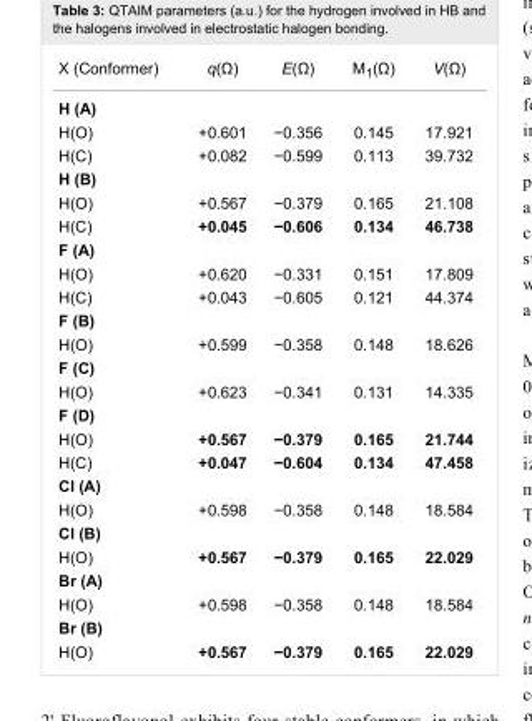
<table><tbody><tr><td>X (Conformer)</td><td>q(Ω)</td><td>E(Ω)</td><td>M<sub>1</sub>(Ω)</td><td>V(Ω)</td></tr><tr><td colspan="5">H (A)</td></tr><tr><td>H(O)</td><td>+0.601</td><td>−0.356</td><td>0.145</td><td>17.921</td></tr><tr><td>H(C)</td><td>+0.082</td><td>−0.599</td><td>0.113</td><td>39.732</td></tr><tr><td colspan="5">H (B)</td></tr><tr><td>H(O)</td><td>+0.567</td><td>−0.379</td><td>0.165</td><td>21.108</td></tr><tr><td>H(C)</td><td>+0.045</td><td>−0.606</td><td>0.134</td><td>46.738</td></tr><tr><td colspan="5">F (A)</td></tr><tr><td>H(O)</td><td>+0.620</td><td>−0.331</td><td>0.151</td><td>17.809</td></tr><tr><td>H(C)</td><td>+0.043</td><td>−0.605</td><td>0.121</td><td>44.374</td></tr><tr><td colspan="5">F (B)</td></tr><tr><td>H(O)</td><td>+0.599</td><td>−0.358</td><td>0.148</td><td>18.626</td></tr><tr><td colspan="5">F (C)</td></tr><tr><td>H(O)</td><td>+0.623</td><td>−0.341</td><td>0.131</td><td>14.335</td></tr><tr><td colspan="5">F (D)</td></tr><tr><td>H(O)</td><td>+0.567</td><td>−0.379</td><td>0.165</td><td>21.744</td></tr><tr><td>H(C)</td><td>+0.047</td><td>−0.604</td><td>0.134</td><td>47.458</td></tr><tr><td colspan="5">Cl (A)</td></tr><tr><td>H(O)</td><td>+0.598</td><td>−0.358</td><td>0.148</td><td>18.584</td></tr><tr><td colspan="5">Cl (B)</td></tr><tr><td>H(O)</td><td>+0.567</td><td>−0.379</td><td>0.165</td><td>22.029</td></tr><tr><td colspan="5">Br (A)</td></tr><tr><td>H(O)</td><td>+0.598</td><td>−0.358</td><td>0.148</td><td>18.584</td></tr><tr><td colspan="5">Br (B)</td></tr><tr><td>H(O)</td><td>+0.567</td><td>−0.379</td><td>0.165</td><td>22.029</td></tr></tbody></table>